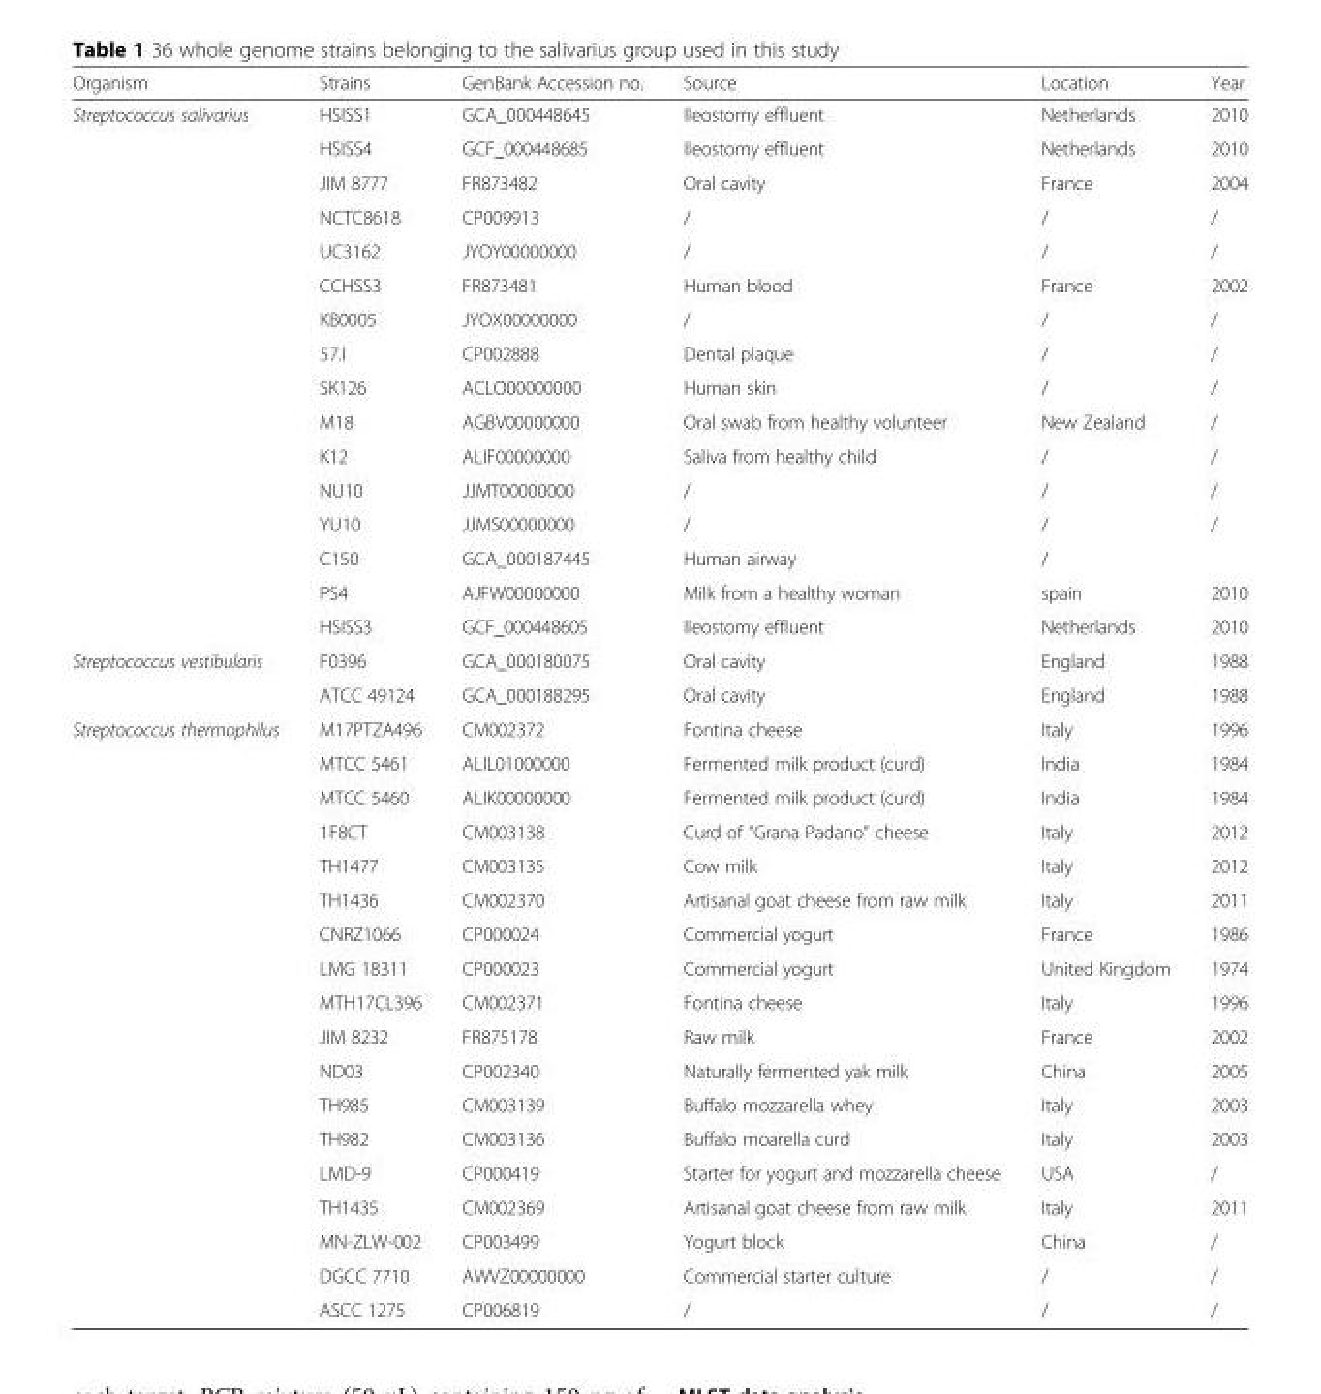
<table><thead><tr><td>Organism</td><td>Strains</td><td>GenBank Accession no.</td><td>Source</td><td>Location</td><td>Year</td></tr></thead><tbody><tr><td rowspan="16">Streptococcus salivarius</td><td>HSISS1</td><td>GCA_000448645</td><td>Ileostomy effluent</td><td>Netherlands</td><td>2010</td></tr><tr><td>HSISS4</td><td>GCF_000448685</td><td>Ileostomy effluent</td><td>Netherlands</td><td>2010</td></tr><tr><td>JIM 8777</td><td>FR873482</td><td>Oral cavity</td><td>France</td><td>2004</td></tr><tr><td>NCTC8618</td><td>CP009913</td><td>/</td><td>/</td><td>/</td></tr><tr><td>UC3162</td><td>JYOY00000000</td><td>/</td><td>/</td><td>/</td></tr><tr><td>CCHSS3</td><td>FR873481</td><td>Human blood</td><td>France</td><td>2002</td></tr><tr><td>KB0005</td><td>JYOX00000000</td><td>/</td><td>/</td><td>/</td></tr><tr><td>57.I</td><td>CP002888</td><td>Dental plaque</td><td>/</td><td>/</td></tr><tr><td>SK126</td><td>ACLO00000000</td><td>Human skin</td><td>/</td><td>/</td></tr><tr><td>M18</td><td>AGBV00000000</td><td>Oral swab from healthy volunteer</td><td>New Zealand</td><td>/</td></tr><tr><td>K12</td><td>ALIF00000000</td><td>Saliva from healthy child</td><td>/</td><td>/</td></tr><tr><td>NU10</td><td>JJMT00000000</td><td>/</td><td>/</td><td>/</td></tr><tr><td>YU10</td><td>JJMS00000000</td><td>/</td><td>/</td><td>/</td></tr><tr><td>C150</td><td>GCA_000187445</td><td>Human airway</td><td>/</td><td></td></tr><tr><td>PS4</td><td>AJFW00000000</td><td>Milk from a healthy woman</td><td>spain</td><td>2010</td></tr><tr><td>HSISS3</td><td>GCF_000448605</td><td>Ileostomy effluent</td><td>Netherlands</td><td>2010</td></tr><tr><td rowspan="2">Streptococcus vestibularis</td><td>F0396</td><td>GCA_000180075</td><td>Oral cavity</td><td>England</td><td>1988</td></tr><tr><td>ATCC 49124</td><td>GCA_000188295</td><td>Oral cavity</td><td>England</td><td>1988</td></tr><tr><td rowspan="18">Streptococcus thermophilus</td><td>M17PTZA496</td><td>CM002372</td><td>Fontina cheese</td><td>Italy</td><td>1996</td></tr><tr><td>MTCC 5461</td><td>ALIL01000000</td><td>Fermented milk product (curd)</td><td>India</td><td>1984</td></tr><tr><td>MTCC 5460</td><td>ALIK00000000</td><td>Fermented milk product (curd)</td><td>India</td><td>1984</td></tr><tr><td>1F8CT</td><td>CM003138</td><td>Curd of “Grana Padano” cheese</td><td>Italy</td><td>2012</td></tr><tr><td>TH1477</td><td>CM003135</td><td>Cow milk</td><td>Italy</td><td>2012</td></tr><tr><td>TH1436</td><td>CM002370</td><td>Artisanal goat cheese from raw milk</td><td>Italy</td><td>2011</td></tr><tr><td>CNRZ1066</td><td>CP000024</td><td>Commercial yogurt</td><td>France</td><td>1986</td></tr><tr><td>LMG 18311</td><td>CP000023</td><td>Commercial yogurt</td><td>United Kingdom</td><td>1974</td></tr><tr><td>MTH17CL396</td><td>CM002371</td><td>Fontina cheese</td><td>Italy</td><td>1996</td></tr><tr><td>JIM 8232</td><td>FR875178</td><td>Raw milk</td><td>France</td><td>2002</td></tr><tr><td>ND03</td><td>CP002340</td><td>Naturally fermented yak milk</td><td>China</td><td>2005</td></tr><tr><td>TH985</td><td>CM003139</td><td>Buffalo mozzarella whey</td><td>Italy</td><td>2003</td></tr><tr><td>TH982</td><td>CM003136</td><td>Buffalo moarella curd</td><td>Italy</td><td>2003</td></tr><tr><td>LMD-9</td><td>CP000419</td><td>Starter for yogurt and mozzarella cheese</td><td>USA</td><td>/</td></tr><tr><td>TH1435</td><td>CM002369</td><td>Artisanal goat cheese from raw milk</td><td>Italy</td><td>2011</td></tr><tr><td>MN-ZLW-002</td><td>CP003499</td><td>Yogurt block</td><td>China</td><td>/</td></tr><tr><td>DGCC 7710</td><td>AWVZ00000000</td><td>Commercial starter culture</td><td>/</td><td>/</td></tr><tr><td>ASCC 1275</td><td>CP006819</td><td>/</td><td>/</td><td>/</td></tr></tbody></table>